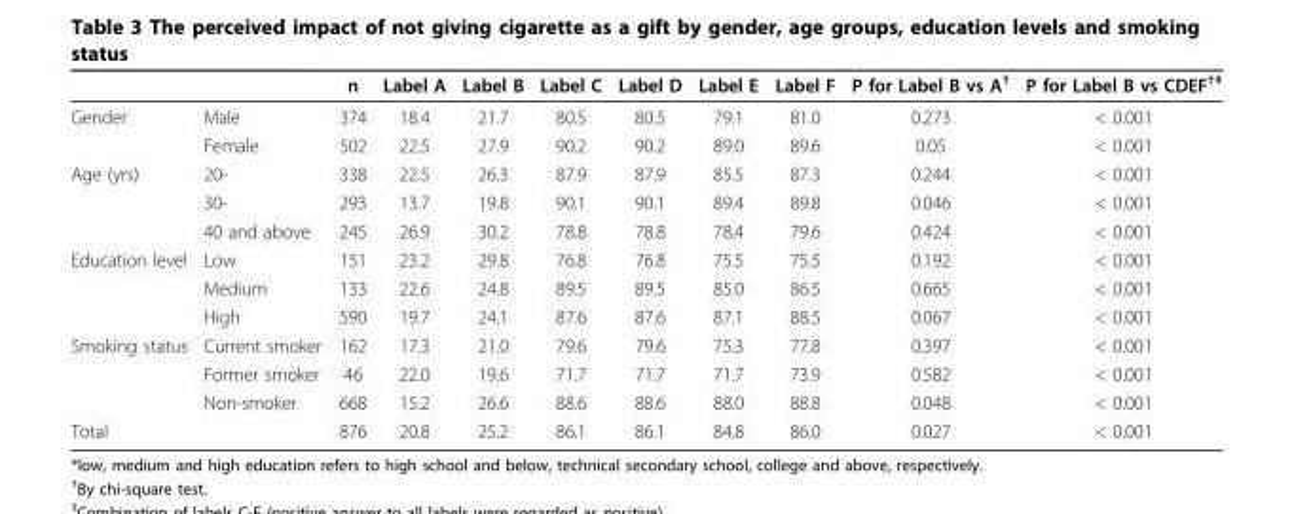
<table><thead><tr><td></td><td></td><td>n</td><td>Label A</td><td>Label B</td><td>Label C</td><td>Label D</td><td>Label E</td><td>Label F</td><td>P for Label B vs A<sup>†</sup></td><td>P for Label B vs CDEF<sup>†‡</sup></td></tr></thead><tbody><tr><td rowspan="2">Gender</td><td>Male</td><td>374</td><td>18.4</td><td>21.7</td><td>80.5</td><td>80.5</td><td>79.1</td><td>81.0</td><td>0.273</td><td>&lt; 0.001</td></tr><tr><td>Female</td><td>502</td><td>22.5</td><td>27.9</td><td>90.2</td><td>90.2</td><td>89.0</td><td>89.6</td><td>0.05</td><td>&lt; 0.001</td></tr><tr><td rowspan="3">Age (yrs)</td><td>20-</td><td>338</td><td>22.5</td><td>26.3</td><td>87.9</td><td>87.9</td><td>85.5</td><td>87.3</td><td>0.244</td><td>&lt; 0.001</td></tr><tr><td>30-</td><td>293</td><td>13.7</td><td>19.8</td><td>90.1</td><td>90.1</td><td>89.4</td><td>89.8</td><td>0.046</td><td>&lt; 0.001</td></tr><tr><td>40 and above</td><td>245</td><td>26.9</td><td>30.2</td><td>78.8</td><td>78.8</td><td>78.4</td><td>79.6</td><td>0.424</td><td>&lt; 0.001</td></tr><tr><td rowspan="3">Education level</td><td>Low</td><td>151</td><td>23.2</td><td>29.8</td><td>76.8</td><td>76.8</td><td>75.5</td><td>75.5</td><td>0.192</td><td>&lt; 0.001</td></tr><tr><td>Medium</td><td>133</td><td>22.6</td><td>24.8</td><td>89.5</td><td>89.5</td><td>85.0</td><td>86.5</td><td>0.665</td><td>&lt; 0.001</td></tr><tr><td>High</td><td>590</td><td>19.7</td><td>24.1</td><td>87.6</td><td>87.6</td><td>87.1</td><td>88.5</td><td>0.067</td><td>&lt; 0.001</td></tr><tr><td rowspan="3">Smoking status</td><td>Current smoker</td><td>162</td><td>17.3</td><td>21.0</td><td>79.6</td><td>79.6</td><td>75.3</td><td>77.8</td><td>0.397</td><td>&lt; 0.001</td></tr><tr><td>Former smoker</td><td>46</td><td>22.0</td><td>19.6</td><td>71.7</td><td>71.7</td><td>71.7</td><td>73.9</td><td>0.582</td><td>&lt; 0.001</td></tr><tr><td>Non-smoker</td><td>668</td><td>15.2</td><td>26.6</td><td>88.6</td><td>88.6</td><td>88.0</td><td>88.8</td><td>0.048</td><td>&lt; 0.001</td></tr><tr><td>Total</td><td></td><td>876</td><td>20.8</td><td>25.2</td><td>86.1</td><td>86.1</td><td>84.8</td><td>86.0</td><td>0.027</td><td>&lt; 0.001</td></tr></tbody></table>